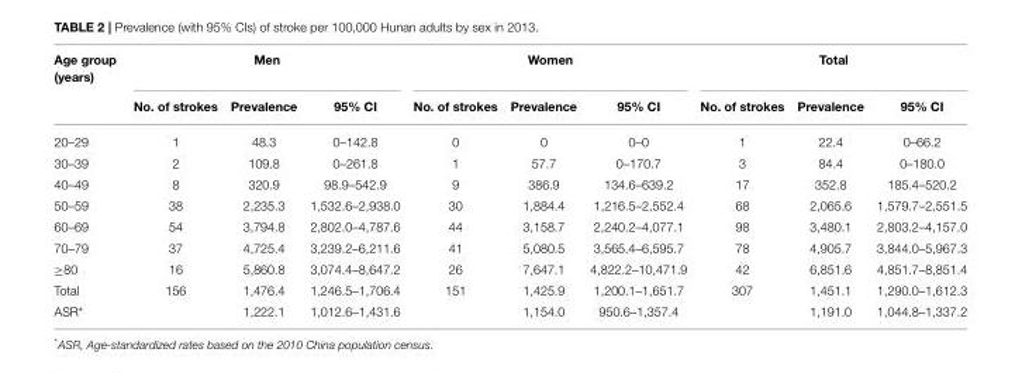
<table><thead><tr><td rowspan="2">Age group (years)</td><td colspan="3">Men</td><td colspan="3">Women</td><td colspan="3">Total</td></tr><tr><td>No. of strokes</td><td>Prevalence</td><td>95% CI</td><td>No. of strokes</td><td>Prevalence</td><td>95% CI</td><td>No. of strokes</td><td>Prevalence</td><td>95% CI</td></tr></thead><tbody><tr><td>20–29</td><td>1</td><td>48.3</td><td>0–142.8</td><td>0</td><td>0</td><td>0–0</td><td>1</td><td>22.4</td><td>0–66.2</td></tr><tr><td>30–39</td><td>2</td><td>109.8</td><td>0–261.8</td><td>1</td><td>57.7</td><td>0–170.7</td><td>3</td><td>84.4</td><td>0–180.0</td></tr><tr><td>40–49</td><td>8</td><td>320.9</td><td>98.9–542.9</td><td>9</td><td>386.9</td><td>134.6–639.2</td><td>17</td><td>352.8</td><td>185.4–520.2</td></tr><tr><td>50–59</td><td>38</td><td>2,235.3</td><td>1,532.6–2,938.0</td><td>30</td><td>1,884.4</td><td>1,216.5–2,552.4</td><td>68</td><td>2,065.6</td><td>1,579.7–2,551.5</td></tr><tr><td>60–69</td><td>54</td><td>3,794.8</td><td>2,802.0–4,787.6</td><td>44</td><td>3,158.7</td><td>2,240.2–4,077.1</td><td>98</td><td>3,480.1</td><td>2,803.2–4,157.0</td></tr><tr><td>70–79</td><td>37</td><td>4,725.4</td><td>3,239.2–6,211.6</td><td>41</td><td>5,080.5</td><td>3,565.4–6,595.7</td><td>78</td><td>4,905.7</td><td>3,844.0–5,967.3</td></tr><tr><td>≥80</td><td>16</td><td>5,860.8</td><td>3,074.4–8,647.2</td><td>26</td><td>7,647.1</td><td>4,822.2–10,471.9</td><td>42</td><td>6,851.6</td><td>4,851.7–8,851.4</td></tr><tr><td>Total</td><td>156</td><td>1,476.4</td><td>1,246.5–1,706.4</td><td>151</td><td>1,425.9</td><td>1,200.1–1,651.7</td><td>307</td><td>1,451.1</td><td>1,290.0–1,612.3</td></tr><tr><td>ASR*</td><td></td><td>1,222.1</td><td>1,012.6–1,431.6</td><td></td><td>1,154.0</td><td>950.6–1,357.4</td><td></td><td>1,191.0</td><td>1,044.8–1,337.2</td></tr></tbody></table>